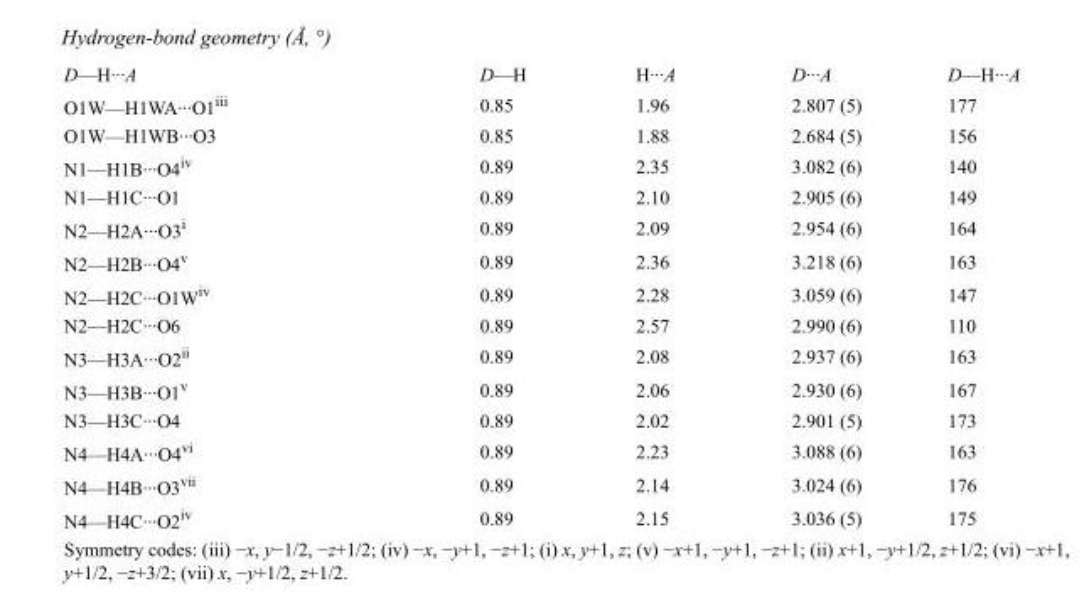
<table><tbody><tr><td>D—H···A</td><td>D—H</td><td>H···A</td><td>D···A</td><td>D—H···A</td></tr><tr><td>O1W—H1WA···O1<sup>iii</sup></td><td>0.85</td><td>1.96</td><td>2.807 (5)</td><td>177</td></tr><tr><td>O1W—H1WB···O3</td><td>0.85</td><td>1.88</td><td>2.684 (5)</td><td>156</td></tr><tr><td>N1—H1B···O4<sup>iv</sup></td><td>0.89</td><td>2.35</td><td>3.082 (6)</td><td>140</td></tr><tr><td>N1—H1C···O1</td><td>0.89</td><td>2.10</td><td>2.905 (6)</td><td>149</td></tr><tr><td>N2—H2A···O3<sup>i</sup></td><td>0.89</td><td>2.09</td><td>2.954 (6)</td><td>164</td></tr><tr><td>N2—H2B···O4<sup>v</sup></td><td>0.89</td><td>2.36</td><td>3.218 (6)</td><td>163</td></tr><tr><td>N2—H2C···O1W<sup>iv</sup></td><td>0.89</td><td>2.28</td><td>3.059 (6)</td><td>147</td></tr><tr><td>N2—H2C···O6</td><td>0.89</td><td>2.57</td><td>2.990 (6)</td><td>110</td></tr><tr><td>N3—H3A···O2<sup>ii</sup></td><td>0.89</td><td>2.08</td><td>2.937 (6)</td><td>163</td></tr><tr><td>N3—H3B···O1<sup>v</sup></td><td>0.89</td><td>2.06</td><td>2.930 (6)</td><td>167</td></tr><tr><td>N3—H3C···O4</td><td>0.89</td><td>2.02</td><td>2.901 (5)</td><td>173</td></tr><tr><td>N4—H4A···O4<sup>vi</sup></td><td>0.89</td><td>2.23</td><td>3.088 (6)</td><td>163</td></tr><tr><td>N4—H4B···O3<sup>vii</sup></td><td>0.89</td><td>2.14</td><td>3.024 (6)</td><td>176</td></tr><tr><td>N4—H4C···O2<sup>iv</sup></td><td>0.89</td><td>2.15</td><td>3.036 (5)</td><td>175</td></tr></tbody></table>